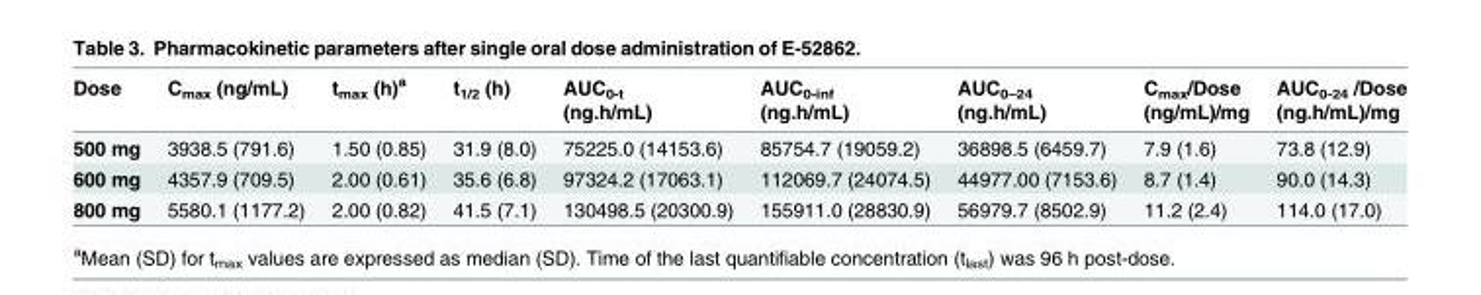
<table><thead><tr><td>Dose</td><td>C<sub>max</sub> (ng/mL)</td><td>t<sub>max</sub> (h)<sup>a</sup></td><td>t<sub>1/2</sub> (h)</td><td>AUC<sub>0-t</sub> (ng.h/mL)</td><td>AUC<sub>0-inf</sub> (ng.h/mL)</td><td>AUC<sub>0–24</sub> (ng.h/mL)</td><td>C<sub>max</sub>/Dose (ng/mL)/mg</td><td>AUC<sub>0-24</sub> /Dose (ng.h/mL)/mg</td></tr></thead><tbody><tr><td>500 mg</td><td>3938.5 (791.6)</td><td>1.50 (0.85)</td><td>31.9 (8.0)</td><td>75225.0 (14153.6)</td><td>85754.7 (19059.2)</td><td>36898.5 (6459.7)</td><td>7.9 (1.6)</td><td>73.8 (12.9)</td></tr><tr><td>600 mg</td><td>4357.9 (709.5)</td><td>2.00 (0.61)</td><td>35.6 (6.8)</td><td>97324.2 (17063.1)</td><td>112069.7 (24074.5)</td><td>44977.00 (7153.6)</td><td>8.7 (1.4)</td><td>90.0 (14.3)</td></tr><tr><td>800 mg</td><td>5580.1 (1177.2)</td><td>2.00 (0.82)</td><td>41.5 (7.1)</td><td>130498.5 (20300.9)</td><td>155911.0 (28830.9)</td><td>56979.7 (8502.9)</td><td>11.2 (2.4)</td><td>114.0 (17.0)</td></tr></tbody></table>